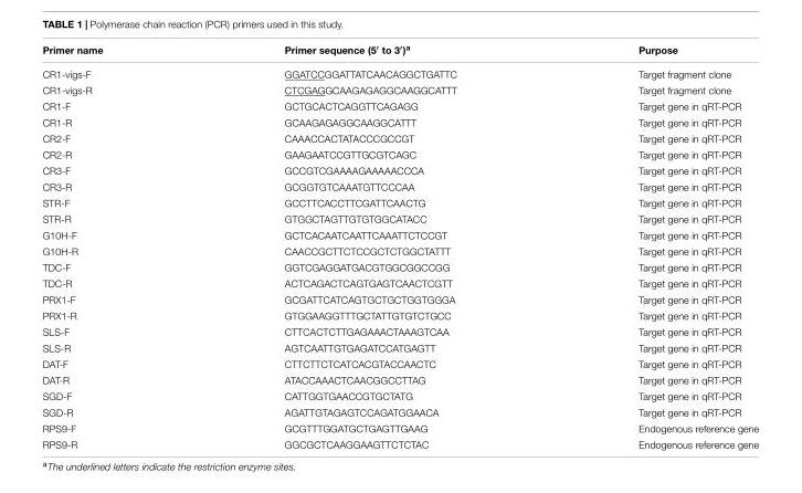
<table><thead><tr><td>Primer name</td><td>Primer sequence (5′ to 3′)<sup>a</sup></td><td>Purpose</td></tr></thead><tbody><tr><td>CR1-vigs-F</td><td>GGATCCGGATTATCAACAGGCTGATTC</td><td>Target fragment clone</td></tr><tr><td>CR1-vigs-R</td><td>CTCGAGGCAAGAGAGGCAAGGCATTT</td><td>Target fragment clone</td></tr><tr><td>CR1-F</td><td>GCTGCACTCAGGTTCAGAGG</td><td>Target gene in qRT-PCR</td></tr><tr><td>CR1-R</td><td>GCAAGAGAGGCAAGGCATTT</td><td>Target gene in qRT-PCR</td></tr><tr><td>CR2-F</td><td>CAAACCACTATACCCGCCGT</td><td>Target gene in qRT-PCR</td></tr><tr><td>CR2-R</td><td>GAAGAATCCGTTGCGTCAGC</td><td>Target gene in qRT-PCR</td></tr><tr><td>CR3-F</td><td>GCCGTCGAAAAGAAAAACCCA</td><td>Target gene in qRT-PCR</td></tr><tr><td>CR3-R</td><td>GCGGTGTCAAATGTTCCCAA</td><td>Target gene in qRT-PCR</td></tr><tr><td>STR-F</td><td>GCCTTCACCTTCGATTCAACTG</td><td>Target gene in qRT-PCR</td></tr><tr><td>STR-R</td><td>GTGGCTAGTTGTGTGGCATACC</td><td>Target gene in qRT-PCR</td></tr><tr><td>G10H-F</td><td>GCTCACAATCAATTCAAATTCTCCGT</td><td>Target gene in qRT-PCR</td></tr><tr><td>G10H-R</td><td>CAACCGCTTCTCCGCTCTGGCTATTT</td><td>Target gene in qRT-PCR</td></tr><tr><td>TDC-F</td><td>GGTCGAGGATGACGTGGCGGCCGG</td><td>Target gene in qRT-PCR</td></tr><tr><td>TDC-R</td><td>ACTCAGACTCAGTGAGTCAACTCGTT</td><td>Target gene in qRT-PCR</td></tr><tr><td>PRX1-F</td><td>GCGATTCATCAGTGCTGCTGGTGGGA</td><td>Target gene in qRT-PCR</td></tr><tr><td>PRX1-R</td><td>GTGGAAGGTTTGCTATTGTGTCTGCC</td><td>Target gene in qRT-PCR</td></tr><tr><td>SLS-F</td><td>CTTCACTCTTGAGAAACTAAAGTCAA</td><td>Target gene in qRT-PCR</td></tr><tr><td>SLS-R</td><td>AGTCAATTGTGAGATCCATGAGTT</td><td>Target gene in qRT-PCR</td></tr><tr><td>DAT-F</td><td>CTTCTTCTCATCACGTACCAACTC</td><td>Target gene in qRT-PCR</td></tr><tr><td>DAT-R</td><td>ATACCAAACTCAACGGCCTTAG</td><td>Target gene in qRT-PCR</td></tr><tr><td>SGD-F</td><td>CATTGGTGAACCGTGCTATG</td><td>Target gene in qRT-PCR</td></tr><tr><td>SGD-R</td><td>AGATTGTAGAGTCCAGATGGAACA</td><td>Target gene in qRT-PCR</td></tr><tr><td>RPS9-F</td><td>GCGTTTGGATGCTGAGTTGAAG</td><td>Endogenous reference gene</td></tr><tr><td>RPS9-R</td><td>GGCGCTCAAGGAAGTTCTCTAC</td><td>Endogenous reference gene</td></tr></tbody></table>